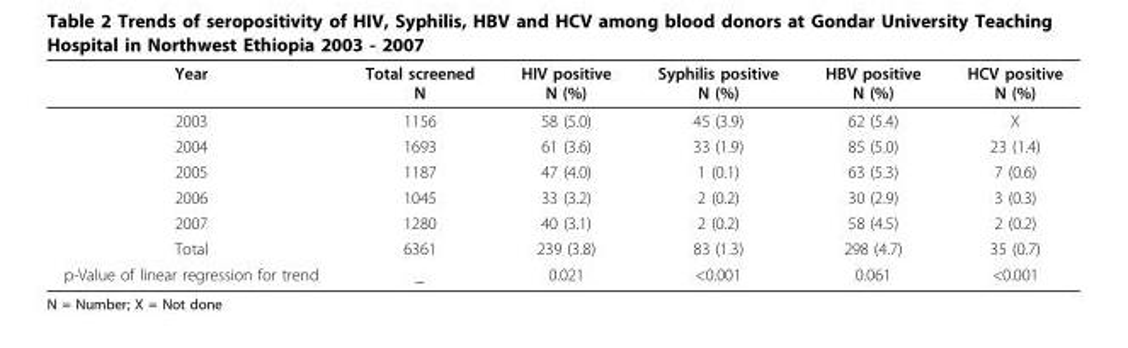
<table><thead><tr><td>Year</td><td>Total screened N</td><td>HIV positive N (%)</td><td>Syphilis positive N (%)</td><td>HBV positive N (%)</td><td>HCV positive N (%)</td></tr></thead><tbody><tr><td>2003</td><td>1156</td><td>58 (5.0)</td><td>45 (3.9)</td><td>62 (5.4)</td><td>X</td></tr><tr><td>2004</td><td>1693</td><td>61 (3.6)</td><td>33 (1.9)</td><td>85 (5.0)</td><td>23 (1.4)</td></tr><tr><td>2005</td><td>1187</td><td>47 (4.0)</td><td>1 (0.1)</td><td>63 (5.3)</td><td>7 (0.6)</td></tr><tr><td>2006</td><td>1045</td><td>33 (3.2)</td><td>2 (0.2)</td><td>30 (2.9)</td><td>3 (0.3)</td></tr><tr><td>2007</td><td>1280</td><td>40 (3.1)</td><td>2 (0.2)</td><td>58 (4.5)</td><td>2 (0.2)</td></tr><tr><td>Total</td><td>6361</td><td>239 (3.8)</td><td>83 (1.3)</td><td>298 (4.7)</td><td>35 (0.7)</td></tr><tr><td>p-Value of linear regression for trend</td><td>_</td><td>0.021</td><td>&lt;0.001</td><td>0.061</td><td>&lt;0.001</td></tr></tbody></table>